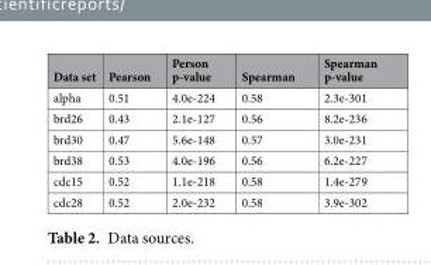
<table><thead><tr><td>Data set</td><td>Pearson</td><td>Person p-value</td><td>Spearman</td><td>Spearman p-value</td></tr></thead><tbody><tr><td>alpha</td><td>0.51</td><td>4.0e-224</td><td>0.58</td><td>2.3e-301</td></tr><tr><td>brd26</td><td>0.43</td><td>2.1e-127</td><td>0.56</td><td>8.2e-236</td></tr><tr><td>brd30</td><td>0.47</td><td>5.6e-148</td><td>0.57</td><td>3.0e-231</td></tr><tr><td>brd38</td><td>0.53</td><td>4.0e-196</td><td>0.56</td><td>6.2e-227</td></tr><tr><td>cdc15</td><td>0.52</td><td>1.1e-218</td><td>0.58</td><td>1.4e-279</td></tr><tr><td>cdc28</td><td>0.52</td><td>2.0e-232</td><td>0.58</td><td>3.9e-302</td></tr></tbody></table>